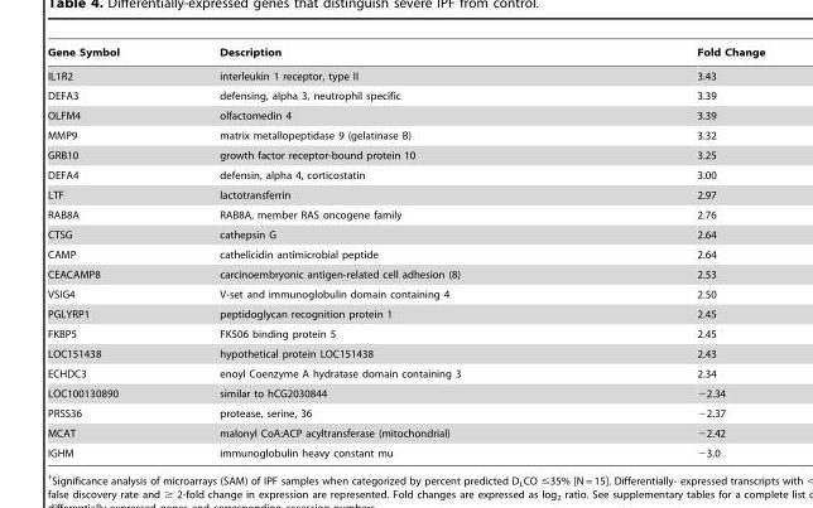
<table><thead><tr><td>Gene Symbol</td><td>Description</td><td>Fold Change</td></tr></thead><tbody><tr><td>IL1R2</td><td>interleukin 1 receptor, type II</td><td>3.43</td></tr><tr><td>DEFA3</td><td>defensing, alpha 3, neutrophil specific</td><td>3.39</td></tr><tr><td>OLFM4</td><td>olfactomedin 4</td><td>3.39</td></tr><tr><td>MMP9</td><td>matrix metallopeptidase 9 (gelatinase B)</td><td>3.32</td></tr><tr><td>GRB10</td><td>growth factor receptor-bound protein 10</td><td>3.25</td></tr><tr><td>DEFA4</td><td>defensin, alpha 4, corticostatin</td><td>3.00</td></tr><tr><td>LTF</td><td>lactotransferrin</td><td>2.97</td></tr><tr><td>RAB8A</td><td>RAB8A, member RAS oncogene family</td><td>2.76</td></tr><tr><td>CTSG</td><td>cathepsin G</td><td>2.64</td></tr><tr><td>CAMP</td><td>cathelicidin antimicrobial peptide</td><td>2.64</td></tr><tr><td>CEACAMP8</td><td>carcinoembryonic antigen-related cell adhesion (8)</td><td>2.53</td></tr><tr><td>VSIG4</td><td>V-set and immunoglobulin domain containing 4</td><td>2.50</td></tr><tr><td>PGLYRP1</td><td>peptidoglycan recognition protein 1</td><td>2.45</td></tr><tr><td>FKBP5</td><td>FK506 binding protein 5</td><td>2.45</td></tr><tr><td>LOC151438</td><td>hypothetical protein LOC151438</td><td>2.43</td></tr><tr><td>ECHDC3</td><td>enoyl Coenzyme A hydratase domain containing 3</td><td>2.34</td></tr><tr><td>LOC100130890</td><td>similar to hCG2030844</td><td>−2.34</td></tr><tr><td>PRSS36</td><td>protease, serine, 36</td><td>−2.37</td></tr><tr><td>MCAT</td><td>malonyl CoA:ACP acyltransferase (mitochondrial)</td><td>−2.42</td></tr><tr><td>IGHM</td><td>immunoglobulin heavy constant mu</td><td>−3.0</td></tr></tbody></table>